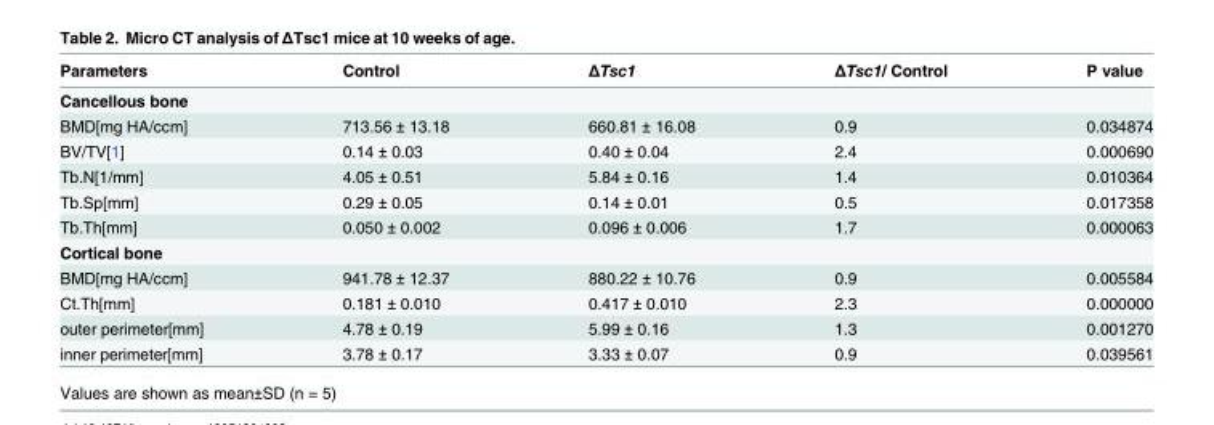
<table><thead><tr><td>Parameters</td><td>Control</td><td>ΔTsc1</td><td>ΔTsc1/ Control</td><td>P value</td></tr></thead><tbody><tr><td colspan="5">Cancellous bone</td></tr><tr><td>BMD[mg HA/ccm]</td><td>713.56 ± 13.18</td><td>660.81 ± 16.08</td><td>0.9</td><td>0.034874</td></tr><tr><td>BV/TV[1]</td><td>0.14 ± 0.03</td><td>0.40 ± 0.04</td><td>2.4</td><td>0.000690</td></tr><tr><td>Tb.N[1/mm]</td><td>4.05 ± 0.51</td><td>5.84 ± 0.16</td><td>1.4</td><td>0.010364</td></tr><tr><td>Tb.Sp[mm]</td><td>0.29 ± 0.05</td><td>0.14 ± 0.01</td><td>0.5</td><td>0.017358</td></tr><tr><td>Tb.Th[mm]</td><td>0.050 ± 0.002</td><td>0.096 ± 0.006</td><td>1.7</td><td>0.000063</td></tr><tr><td colspan="5">Cortical bone</td></tr><tr><td>BMD[mg HA/ccm]</td><td>941.78 ± 12.37</td><td>880.22 ± 10.76</td><td>0.9</td><td>0.005584</td></tr><tr><td>Ct.Th[mm]</td><td>0.181 ± 0.010</td><td>0.417 ± 0.010</td><td>2.3</td><td>0.000000</td></tr><tr><td>outer perimeter[mm]</td><td>4.78 ± 0.19</td><td>5.99 ± 0.16</td><td>1.3</td><td>0.001270</td></tr><tr><td>inner perimeter[mm]</td><td>3.78 ± 0.17</td><td>3.33 ± 0.07</td><td>0.9</td><td>0.039561</td></tr></tbody></table>